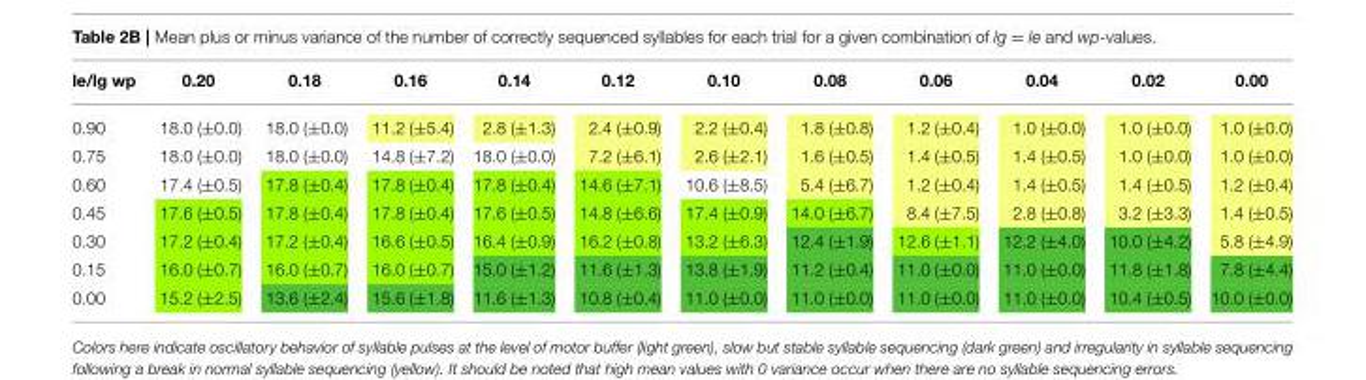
<table><thead><tr><td>le/lg wp</td><td>0.20</td><td>0.18</td><td>0.16</td><td>0.14</td><td>0.12</td><td>0.10</td><td>0.08</td><td>0.06</td><td>0.04</td><td>0.02</td><td>0.00</td></tr></thead><tbody><tr><td>0.90</td><td>18.0 (±0.0)</td><td>18.0 (±0.0)</td><td>11.2 (±5.4)</td><td>2.8 (±1.3)</td><td>2.4 (±0.9)</td><td>2.2 (±0.4)</td><td>1.8 (±0.8)</td><td>1.2 (±0.4)</td><td>1.0 (±0.0)</td><td>1.0 (±0.0)</td><td>1.0 (±0.0)</td></tr><tr><td>0.75</td><td>18.0 (±0.0)</td><td>18.0 (±0.0)</td><td>14.8 (±7.2)</td><td>18.0 (±0.0)</td><td>7.2 (±6.1)</td><td>2.6 (±2.1)</td><td>1.6 (±0.5)</td><td>1.4 (±0.5)</td><td>1.4 (±0.5)</td><td>1.0 (±0.0)</td><td>1.0 (±0.0)</td></tr><tr><td>0.60</td><td>17.4 (±0.5)</td><td>17.8 (±0.4)</td><td>17.8 (±0.4)</td><td>17.8 (±0.4)</td><td>14.6 (±7.1)</td><td>10.6 (±8.5)</td><td>5.4 (±6.7)</td><td>1.2 (±0.4)</td><td>1.4 (±0.5)</td><td>1.4 (±0.5)</td><td>1.2 (±0.4)</td></tr><tr><td>0.45</td><td>17.6 (±0.5)</td><td>17.8 (±0.4)</td><td>17.8 (±0.4)</td><td>17.6 (±0.5)</td><td>14.8 (±6.6)</td><td>17.4 (±0.9)</td><td>14.0 (±6.7)</td><td>8.4 (±7.5)</td><td>2.8 (±0.8)</td><td>3.2 (±3.3)</td><td>1.4 (±0.5)</td></tr><tr><td>0.30</td><td>17.2 (±0.4)</td><td>17.2 (±0.4)</td><td>16.6 (±0.5)</td><td>16.4 (±0.9)</td><td>16.2 (±0.8)</td><td>13.2 (±6.3)</td><td>12.4 (±1.9)</td><td>12.6 (±1.1)</td><td>12.2 (±4.0)</td><td>10.0 (±4.2)</td><td>5.8 (±4.9)</td></tr><tr><td>0.15</td><td>16.0 (±0.7)</td><td>16.0 (±0.7)</td><td>16.0 (±0.7)</td><td>15.0 (±1.2)</td><td>11.6 (±1.3)</td><td>13.8 (±1.9)</td><td>11.2 (±0.4)</td><td>11.0 (±0.0)</td><td>11.0 (±0.0)</td><td>11.8 (±1.8)</td><td>7.8 (±4.4)</td></tr><tr><td>0.00</td><td>15.2 (±2.5)</td><td>13.6 (±2.4)</td><td>15.6 (±1.8)</td><td>11.6 (±1.3)</td><td>10.8 (±0.4)</td><td>11.0 (±0.0)</td><td>11.0 (±0.0)</td><td>11.0 (±0.0)</td><td>11.0 (±0.0)</td><td>10.4 (±0.5)</td><td>10.0 (±0.0)</td></tr></tbody></table>